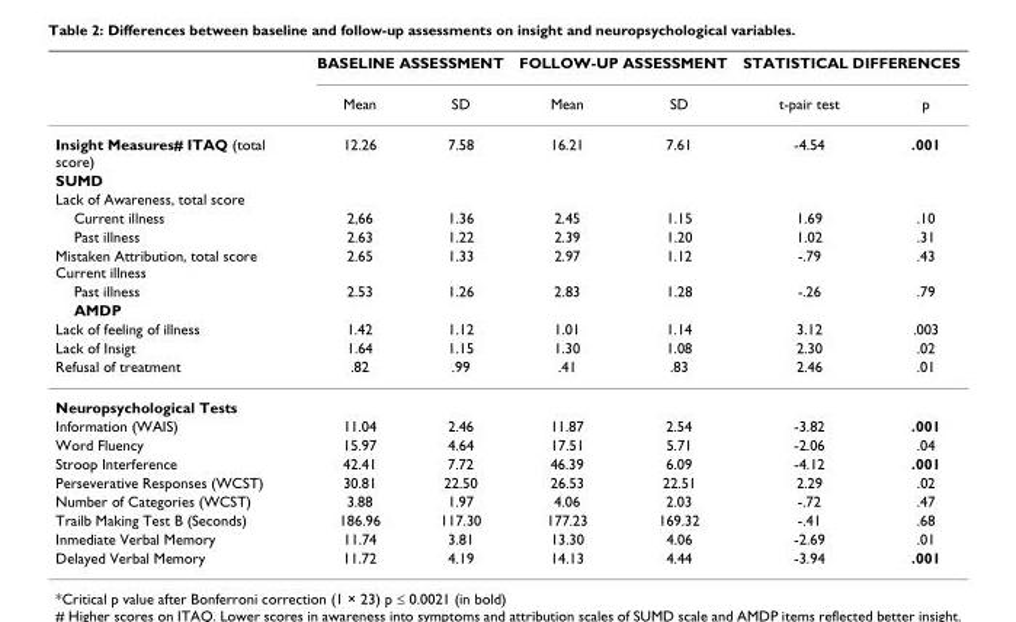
<table><thead><tr><td rowspan="2"></td><td colspan="2">BASELINE ASSESSMENT</td><td colspan="2">FOLLOW-UP ASSESSMENT</td><td colspan="2">STATISTICAL DIFFERENCES</td></tr><tr><td>Mean</td><td>SD</td><td>Mean</td><td>SD</td><td>t-pair test</td><td>p</td></tr></thead><tbody><tr><td>Insight Measures# ITAQ (total score)</td><td>12.26</td><td>7.58</td><td>16.21</td><td>7.61</td><td>-4.54</td><td>.001</td></tr><tr><td colspan="7">SUMD</td></tr><tr><td colspan="7">Lack of Awareness, total score</td></tr><tr><td>Current illness</td><td>2,66</td><td>1.36</td><td>2.45</td><td>1.15</td><td>1.69</td><td>.10</td></tr><tr><td>Past illness</td><td>2.63</td><td>1.22</td><td>2.39</td><td>1.20</td><td>1.02</td><td>.31</td></tr><tr><td>Mistaken Attribution, total score Current illness</td><td>2.65</td><td>1.33</td><td>2.97</td><td>1.12</td><td>-.79</td><td>.43</td></tr><tr><td>Past illness</td><td>2.53</td><td>1.26</td><td>2.83</td><td>1.28</td><td>-.26</td><td>.79</td></tr><tr><td colspan="7">AMDP</td></tr><tr><td>Lack of feeling of illness</td><td>1.42</td><td>1.12</td><td>1.01</td><td>1.14</td><td>3.12</td><td>.003</td></tr><tr><td>Lack of Insigt</td><td>1.64</td><td>1.15</td><td>1.30</td><td>1.08</td><td>2.30</td><td>.02</td></tr><tr><td>Refusal of treatment</td><td>.82</td><td>.99</td><td>.41</td><td>.83</td><td>2.46</td><td>.01</td></tr><tr><td colspan="7">Neuropsychological Tests</td></tr><tr><td>Information (WAIS)</td><td>11.04</td><td>2.46</td><td>11.87</td><td>2.54</td><td>-3.82</td><td>.001</td></tr><tr><td>Word Fluency</td><td>15.97</td><td>4.64</td><td>17.51</td><td>5.71</td><td>-2.06</td><td>.04</td></tr><tr><td>Stroop Interference</td><td>42.41</td><td>7.72</td><td>46.39</td><td>6.09</td><td>-4.12</td><td>.001</td></tr><tr><td>Perseverative Responses (WCST)</td><td>30.81</td><td>22.50</td><td>26.53</td><td>22.51</td><td>2.29</td><td>.02</td></tr><tr><td>Number of Categories (WCST)</td><td>3.88</td><td>1.97</td><td>4.06</td><td>2.03</td><td>-.72</td><td>.47</td></tr><tr><td>Trailb Making Test B (Seconds)</td><td>186.96</td><td>117.30</td><td>177.23</td><td>169.32</td><td>-.41</td><td>.68</td></tr><tr><td>Inmediate Verbal Memory</td><td>11.74</td><td>3.81</td><td>13.30</td><td>4.06</td><td>-2.69</td><td>.01</td></tr><tr><td>Delayed Verbal Memory</td><td>11.72</td><td>4.19</td><td>14.13</td><td>4.44</td><td>-3.94</td><td>.001</td></tr></tbody></table>